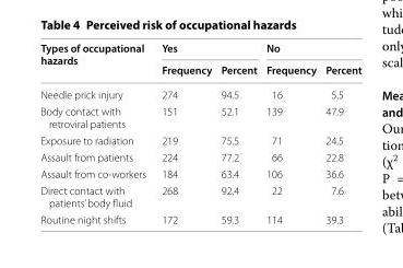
<table><thead><tr><td rowspan="2">Types of occupational hazards</td><td colspan="2">Yes</td><td colspan="2">No</td></tr><tr><td>Frequency</td><td>Percent</td><td>Frequency</td><td>Percent</td></tr></thead><tbody><tr><td>Needle prick injury</td><td>274</td><td>94.5</td><td>16</td><td>5.5</td></tr><tr><td>Body contact with retroviral patients</td><td>151</td><td>52.1</td><td>139</td><td>47.9</td></tr><tr><td>Exposure to radiation</td><td>219</td><td>75.5</td><td>71</td><td>24.5</td></tr><tr><td>Assault from patients</td><td>224</td><td>77.2</td><td>66</td><td>22.8</td></tr><tr><td>Assault from co-workers</td><td>184</td><td>63.4</td><td>106</td><td>36.6</td></tr><tr><td>Direct contact with patients’ body fluid</td><td>268</td><td>92.4</td><td>22</td><td>7.6</td></tr><tr><td>Routine night shifts</td><td>172</td><td>59.3</td><td>114</td><td>39.3</td></tr></tbody></table>